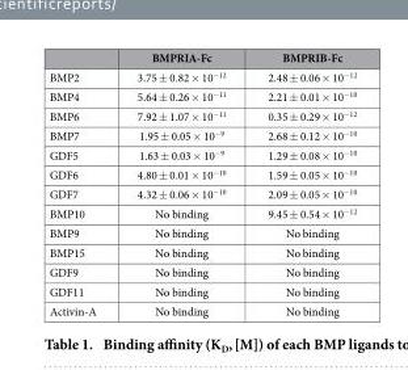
<table><thead><tr><td></td><td>BMPRIA-Fc</td><td>BMPRIB-Fc</td></tr></thead><tbody><tr><td>BMP2</td><td>3.75 ± 0.82 × 10<sup>−12</sup></td><td>2.48 ± 0.06 × 10<sup>−12</sup></td></tr><tr><td>BMP4</td><td>5.64 ± 0.26 × 10<sup>−11</sup></td><td>2.21 ± 0.01 × 10<sup>−10</sup></td></tr><tr><td>BMP6</td><td>7.92 ± 1.07 × 10<sup>−11</sup></td><td>0.35 ± 0.29 × 10<sup>−12</sup></td></tr><tr><td>BMP7</td><td>1.95 ± 0.05 × 10<sup>−9</sup></td><td>2.68 ± 0.12 × 10<sup>−10</sup></td></tr><tr><td>GDF5</td><td>1.63 ± 0.03 × 10<sup>−9</sup></td><td>1.29 ± 0.08 × 10<sup>−10</sup></td></tr><tr><td>GDF6</td><td>4.80 ± 0.01 × 10<sup>−10</sup></td><td>1.59 ± 0.05 × 10<sup>−10</sup></td></tr><tr><td>GDF7</td><td>4.32 ± 0.06 × 10<sup>−10</sup></td><td>2.09 ± 0.05 × 10<sup>−10</sup></td></tr><tr><td>BMP10</td><td>No binding</td><td>9.45 ± 0.54 × 10<sup>−12</sup></td></tr><tr><td>BMP9</td><td>No binding</td><td>No binding</td></tr><tr><td>BMP15</td><td>No binding</td><td>No binding</td></tr><tr><td>GDF9</td><td>No binding</td><td>No binding</td></tr><tr><td>GDF11</td><td>No binding</td><td>No binding</td></tr><tr><td>Activin-A</td><td>No binding</td><td>No binding</td></tr></tbody></table>